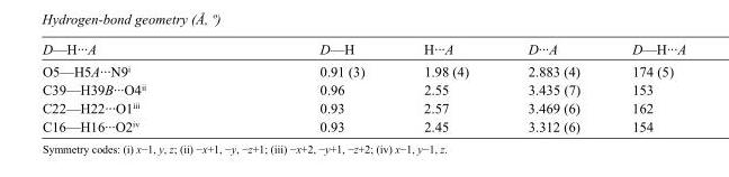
<table><tbody><tr><td>D—H···A</td><td>D—H</td><td>H···A</td><td>D···A</td><td>D—H···A</td></tr><tr><td>O5—H5A···N9<sup>i</sup></td><td>0.91 (3)</td><td>1.98 (4)</td><td>2.883 (4)</td><td>174 (5)</td></tr><tr><td>C39—H39B···O4<sup>ii</sup></td><td>0.96</td><td>2.55</td><td>3.435 (7)</td><td>153</td></tr><tr><td>C22—H22···O1<sup>iii</sup></td><td>0.93</td><td>2.57</td><td>3.469 (6)</td><td>162</td></tr><tr><td>C16—H16···O2<sup>iv</sup></td><td>0.93</td><td>2.45</td><td>3.312 (6)</td><td>154</td></tr></tbody></table>